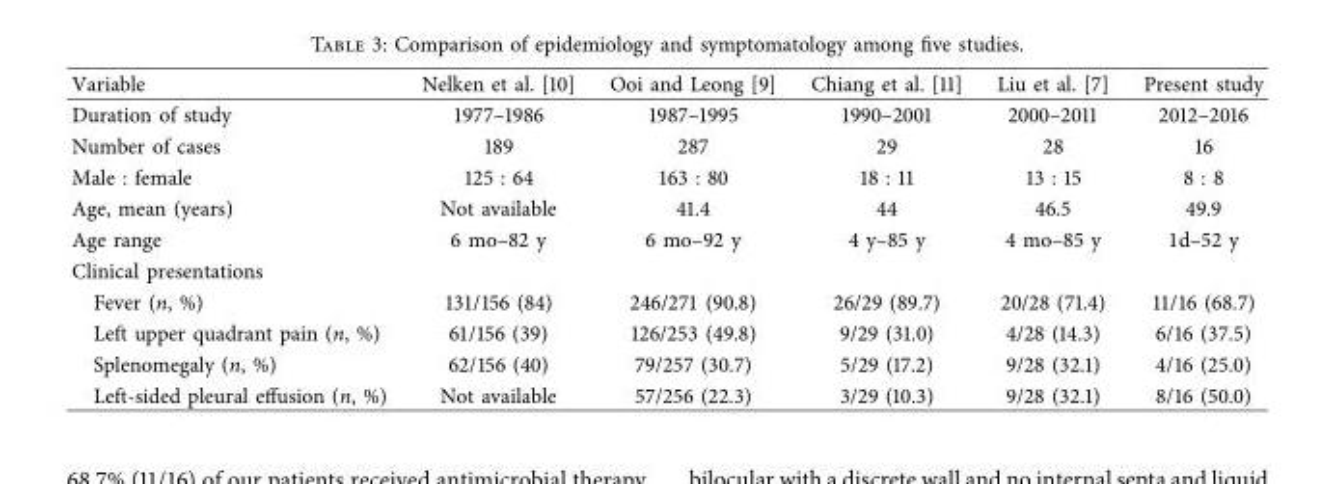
<table><thead><tr><td>Variable</td><td>Nelken et al. [10]</td><td>Ooi and Leong [9]</td><td>Chiang et al. [11]</td><td>Liu et al. [7]</td><td>Present study</td></tr></thead><tbody><tr><td>Duration of study</td><td>1977–1986</td><td>1987–1995</td><td>1990–2001</td><td>2000–2011</td><td>2012–2016</td></tr><tr><td>Number of cases</td><td>189</td><td>287</td><td>29</td><td>28</td><td>16</td></tr><tr><td>Male : female</td><td>125 : 64</td><td>163 : 80</td><td>18 : 11</td><td>13 : 15</td><td>8 : 8</td></tr><tr><td>Age, mean (years)</td><td>Not available</td><td>41.4</td><td>44</td><td>46.5</td><td>49.9</td></tr><tr><td>Age range</td><td>6 mo–82 y</td><td>6 mo–92 y</td><td>4 y–85 y</td><td>4 mo–85 y</td><td>1d–52 y</td></tr><tr><td colspan="6">Clinical presentations</td></tr><tr><td>Fever (n, %)</td><td>131/156 (84)</td><td>246/271 (90.8)</td><td>26/29 (89.7)</td><td>20/28 (71.4)</td><td>11/16 (68.7)</td></tr><tr><td>Left upper quadrant pain (n, %)</td><td>61/156 (39)</td><td>126/253 (49.8)</td><td>9/29 (31.0)</td><td>4/28 (14.3)</td><td>6/16 (37.5)</td></tr><tr><td>Splenomegaly (n, %)</td><td>62/156 (40)</td><td>79/257 (30.7)</td><td>5/29 (17.2)</td><td>9/28 (32.1)</td><td>4/16 (25.0)</td></tr><tr><td>Left-sided pleural efusion (n, %)</td><td>Not available</td><td>57/256 (22.3)</td><td>3/29 (10.3)</td><td>9/28 (32.1)</td><td>8/16 (50.0)</td></tr></tbody></table>